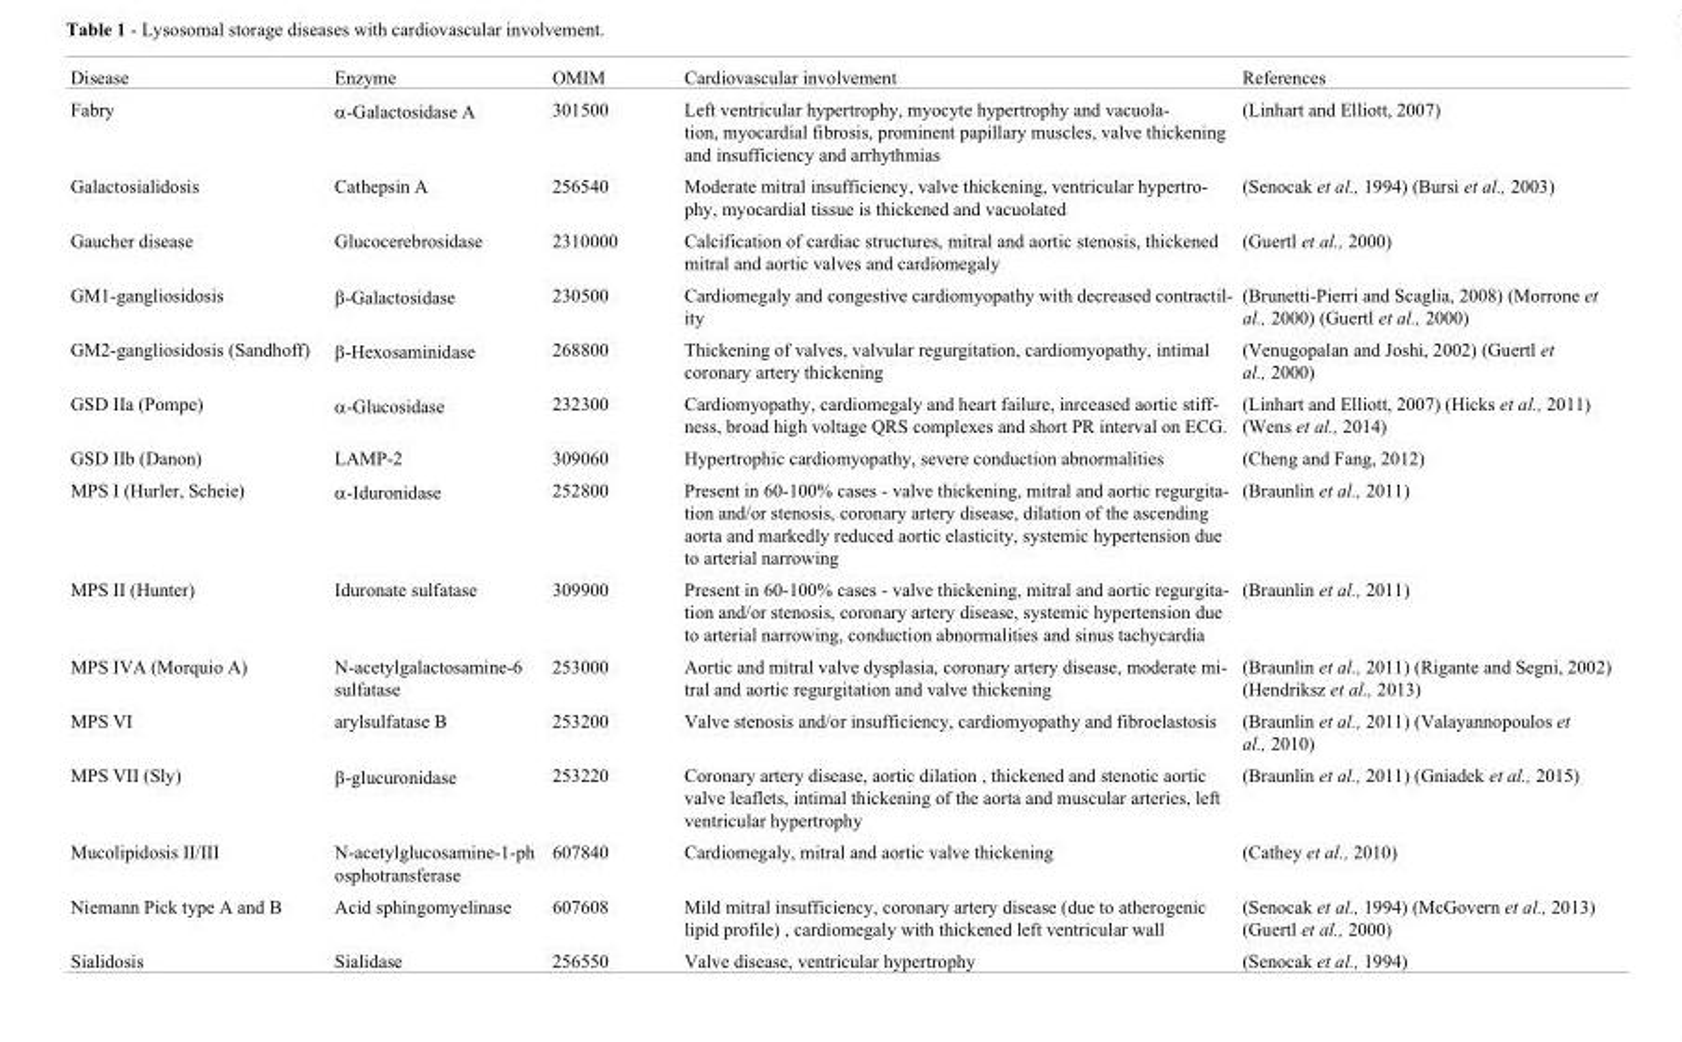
<table><thead><tr><td>Disease</td><td>Enzyme</td><td>OMIM</td><td>Cardiovascular involvement</td><td>References</td></tr></thead><tbody><tr><td>Fabry</td><td>α-Galactosidase A</td><td>301500</td><td>Left ventricular hypertrophy, myocyte hypertrophy and vacuola- tion, myocardial fibrosis, prominent papillary muscles, valve thickening and insufficiency and arrhythmias</td><td>(Linhart and Elliott, 2007)</td></tr><tr><td>Galactosialidosis</td><td>Cathepsin A</td><td>256540</td><td>Moderate mitral insufficiency, valve thickening, ventricular hypertro- phy, myocardial tissue is thickened and vacuolated</td><td>(Senocak et al., 1994) (Bursi et al., 2003)</td></tr><tr><td>Gaucher disease</td><td>Glucocerebrosidase</td><td>2310000</td><td>Calcification of cardiac structures, mitral and aortic stenosis, thickened mitral and aortic valves and cardiomegaly</td><td>(Guertl et al., 2000)</td></tr><tr><td>GM1-gangliosidosis</td><td>β-Galactosidase</td><td>230500</td><td>Cardiomegaly and congestive cardiomyopathy with decreased contractil- ity</td><td>(Brunetti-Pierri and Scaglia, 2008) (Morrone et al., 2000) (Guertl et al., 2000)</td></tr><tr><td>GM2-gangliosidosis (Sandhoff)</td><td>β-Hexosaminidase</td><td>268800</td><td>Thickening of valves, valvular regurgitation, cardiomyopathy, intimal coronary artery thickening</td><td>(Venugopalan and Joshi, 2002) (Guertl et al., 2000)</td></tr><tr><td>GSD IIa (Pompe)</td><td>α-Glucosidase</td><td>232300</td><td>Cardiomyopathy, cardiomegaly and heart failure, inrceased aortic stiff- ness, broad high voltage QRS complexes and short PR interval on ECG.</td><td>(Linhart and Elliott, 2007) (Hicks et al., 2011) (Wens et al., 2014)</td></tr><tr><td>GSD IIb (Danon)</td><td>LAMP-2</td><td>309060</td><td>Hypertrophic cardiomyopathy, severe conduction abnormalities</td><td>(Cheng and Fang, 2012)</td></tr><tr><td>MPS I (Hurler, Scheie)</td><td>α-Iduronidase</td><td>252800</td><td>Present in 60-100% cases - valve thickening, mitral and aortic regurgita- tion and/or stenosis, coronary artery disease, dilation of the ascending aorta and markedly reduced aortic elasticity, systemic hypertension due to arterial narrowing</td><td>(Braunlin et al., 2011)</td></tr><tr><td>MPS II (Hunter)</td><td>Iduronate sulfatase</td><td>309900</td><td>Present in 60-100% cases - valve thickening, mitral and aortic regurgita- tion and/or stenosis, coronary artery disease, systemic hypertension due to arterial narrowing, conduction abnormalities and sinus tachycardia</td><td>(Braunlin et al., 2011)</td></tr><tr><td>MPS IVA (Morquio A)</td><td>N-acetylgalactosamine-6 sulfatase</td><td>253000</td><td>Aortic and mitral valve dysplasia, coronary artery disease, moderate mi- tral and aortic regurgitation and valve thickening</td><td>(Braunlin et al., 2011) (Rigante and Segni, 2002) (Hendriksz et al., 2013)</td></tr><tr><td>MPS VI</td><td>arylsulfatase B</td><td>253200</td><td>Valve stenosis and/or insufficiency, cardiomyopathy and fibroelastosis</td><td>(Braunlin et al., 2011) (Valayannopoulos et al., 2010)</td></tr><tr><td>MPS VII (Sly)</td><td>β-glucuronidase</td><td>253220</td><td>Coronary artery disease, aortic dilation , thickened and stenotic aortic valve leaflets, intimal thickening of the aorta and muscular arteries, left ventricular hypertrophy</td><td>(Braunlin et al., 2011) (Gniadek et al., 2015)</td></tr><tr><td>Mucolipidosis II/III</td><td>N-acetylglucosamine-1-ph osphotransferase</td><td>607840</td><td>Cardiomegaly, mitral and aortic valve thickening</td><td>(Cathey et al., 2010)</td></tr><tr><td>Niemann Pick type A and B</td><td>Acid sphingomyelinase</td><td>607608</td><td>Mild mitral insufficiency, coronary artery disease (due to atherogenic lipid profile) , cardiomegaly with thickened left ventricular wall</td><td>(Senocak et al., 1994) (McGovern et al., 2013) (Guertl et al., 2000)</td></tr><tr><td>Sialidosis</td><td>Sialidase</td><td>256550</td><td>Valve disease, ventricular hypertrophy</td><td>(Senocak et al., 1994)</td></tr></tbody></table>